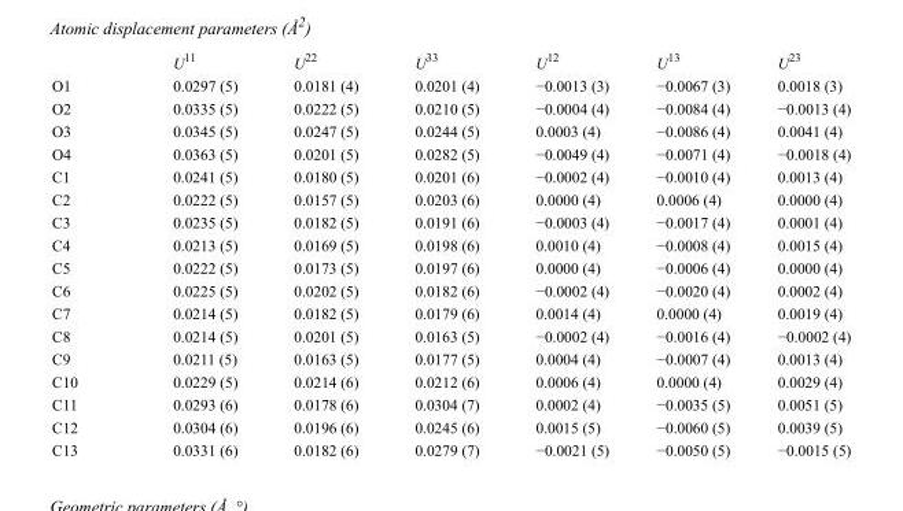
<table><thead><tr><td></td><td>U<sup>11</sup></td><td>U<sup>22</sup></td><td>U<sup>33</sup></td><td>U<sup>12</sup></td><td>U<sup>13</sup></td><td>U<sup>23</sup></td></tr></thead><tbody><tr><td>O1</td><td>0.0297 (5)</td><td>0.0181 (4)</td><td>0.0201 (4)</td><td>−0.0013 (3)</td><td>−0.0067 (3)</td><td>0.0018 (3)</td></tr><tr><td>O2</td><td>0.0335 (5)</td><td>0.0222 (5)</td><td>0.0210 (5)</td><td>−0.0004 (4)</td><td>−0.0084 (4)</td><td>−0.0013 (4)</td></tr><tr><td>O3</td><td>0.0345 (5)</td><td>0.0247 (5)</td><td>0.0244 (5)</td><td>0.0003 (4)</td><td>−0.0086 (4)</td><td>0.0041 (4)</td></tr><tr><td>O4</td><td>0.0363 (5)</td><td>0.0201 (5)</td><td>0.0282 (5)</td><td>−0.0049 (4)</td><td>−0.0071 (4)</td><td>−0.0018 (4)</td></tr><tr><td>C1</td><td>0.0241 (5)</td><td>0.0180 (5)</td><td>0.0201 (6)</td><td>−0.0002 (4)</td><td>−0.0010 (4)</td><td>0.0013 (4)</td></tr><tr><td>C2</td><td>0.0222 (5)</td><td>0.0157 (5)</td><td>0.0203 (6)</td><td>0.0000 (4)</td><td>0.0006 (4)</td><td>0.0000 (4)</td></tr><tr><td>C3</td><td>0.0235 (5)</td><td>0.0182 (5)</td><td>0.0191 (6)</td><td>−0.0003 (4)</td><td>−0.0017 (4)</td><td>0.0001 (4)</td></tr><tr><td>C4</td><td>0.0213 (5)</td><td>0.0169 (5)</td><td>0.0198 (6)</td><td>0.0010 (4)</td><td>−0.0008 (4)</td><td>0.0015 (4)</td></tr><tr><td>C5</td><td>0.0222 (5)</td><td>0.0173 (5)</td><td>0.0197 (6)</td><td>0.0000 (4)</td><td>−0.0006 (4)</td><td>0.0000 (4)</td></tr><tr><td>C6</td><td>0.0225 (5)</td><td>0.0202 (5)</td><td>0.0182 (6)</td><td>−0.0002 (4)</td><td>−0.0020 (4)</td><td>0.0002 (4)</td></tr><tr><td>C7</td><td>0.0214 (5)</td><td>0.0182 (5)</td><td>0.0179 (6)</td><td>0.0014 (4)</td><td>0.0000 (4)</td><td>0.0019 (4)</td></tr><tr><td>C8</td><td>0.0214 (5)</td><td>0.0201 (5)</td><td>0.0163 (5)</td><td>−0.0002 (4)</td><td>−0.0016 (4)</td><td>−0.0002 (4)</td></tr><tr><td>C9</td><td>0.0211 (5)</td><td>0.0163 (5)</td><td>0.0177 (5)</td><td>0.0004 (4)</td><td>−0.0007 (4)</td><td>0.0013 (4)</td></tr><tr><td>C10</td><td>0.0229 (5)</td><td>0.0214 (6)</td><td>0.0212 (6)</td><td>0.0006 (4)</td><td>0.0000 (4)</td><td>0.0029 (4)</td></tr><tr><td>C11</td><td>0.0293 (6)</td><td>0.0178 (6)</td><td>0.0304 (7)</td><td>0.0002 (4)</td><td>−0.0035 (5)</td><td>0.0051 (5)</td></tr><tr><td>C12</td><td>0.0304 (6)</td><td>0.0196 (6)</td><td>0.0245 (6)</td><td>0.0015 (5)</td><td>−0.0060 (5)</td><td>0.0039 (5)</td></tr><tr><td>C13</td><td>0.0331 (6)</td><td>0.0182 (6)</td><td>0.0279 (7)</td><td>−0.0021 (5)</td><td>−0.0050 (5)</td><td>−0.0015 (5)</td></tr></tbody></table>